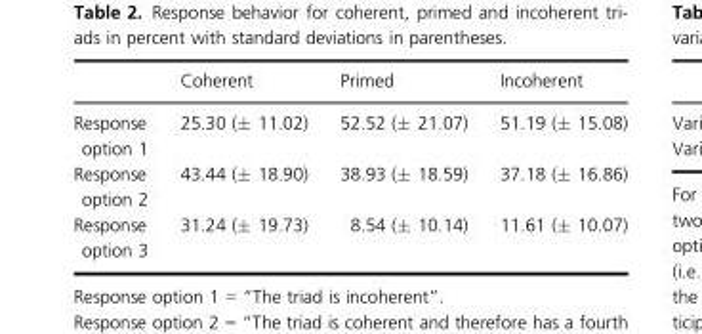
<table><thead><tr><td></td><td>Coherent</td><td>Primed</td><td>Incoherent</td></tr></thead><tbody><tr><td>Response option 1</td><td>25.30 (± 11.02)</td><td>52.52 (± 21.07)</td><td>51.19 (± 15.08)</td></tr><tr><td>Response option 2</td><td>43.44 (± 18.90)</td><td>38.93 (± 18.59)</td><td>37.18 (± 16.86)</td></tr><tr><td>Response option 3</td><td>31.24 (± 19.73)</td><td>8.54 (± 10.14)</td><td>11.61 (± 10.07)</td></tr></tbody></table>